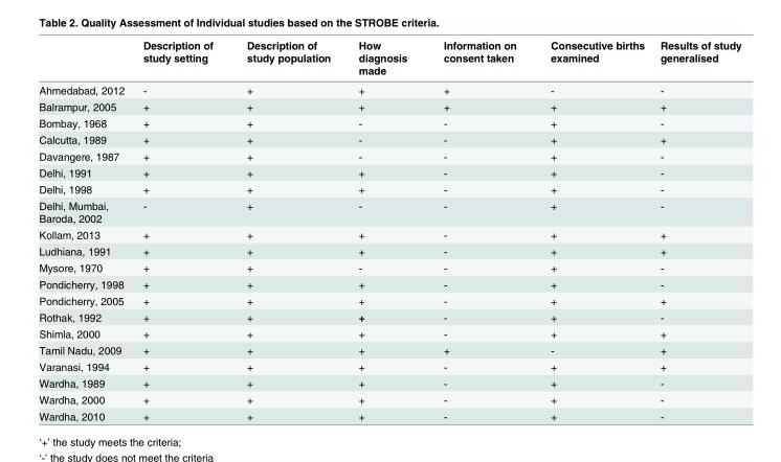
<table><thead><tr><td></td><td>Description of study setting</td><td>Description of study population</td><td>How diagnosis made</td><td>Information on consent taken</td><td>Consecutive births examined</td><td>Results of study generalised</td></tr></thead><tbody><tr><td>Ahmedabad, 2012</td><td>-</td><td>+</td><td>+</td><td>+</td><td>-</td><td>-</td></tr><tr><td>Balrampur, 2005</td><td>+</td><td>+</td><td>+</td><td>+</td><td>+</td><td>+</td></tr><tr><td>Bombay, 1968</td><td>+</td><td>+</td><td>-</td><td>-</td><td>+</td><td>-</td></tr><tr><td>Calcutta, 1989</td><td>+</td><td>+</td><td>-</td><td>-</td><td>+</td><td>+</td></tr><tr><td>Davangere, 1987</td><td>+</td><td>+</td><td>-</td><td>-</td><td>+</td><td>-</td></tr><tr><td>Delhi, 1991</td><td>+</td><td>+</td><td>+</td><td>-</td><td>+</td><td>-</td></tr><tr><td>Delhi, 1998</td><td>+</td><td>+</td><td>+</td><td>-</td><td>+</td><td>-</td></tr><tr><td>Delhi, Mumbai, Baroda, 2002</td><td>-</td><td>+</td><td>-</td><td>-</td><td>+</td><td>-</td></tr><tr><td>Kollam, 2013</td><td>+</td><td>+</td><td>+</td><td>-</td><td>+</td><td>+</td></tr><tr><td>Ludhiana, 1991</td><td>+</td><td>+</td><td>+</td><td>-</td><td>+</td><td>+</td></tr><tr><td>Mysore, 1970</td><td>+</td><td>+</td><td>-</td><td>-</td><td>+</td><td>-</td></tr><tr><td>Pondicherry, 1998</td><td>+</td><td>+</td><td>+</td><td>-</td><td>+</td><td>-</td></tr><tr><td>Pondicherry, 2005</td><td>+</td><td>+</td><td>+</td><td>-</td><td>+</td><td>+</td></tr><tr><td>Rothak, 1992</td><td>+</td><td>+</td><td>+</td><td>-</td><td>+</td><td>-</td></tr><tr><td>Shimla, 2000</td><td>+</td><td>+</td><td>+</td><td>-</td><td>+</td><td>+</td></tr><tr><td>Tamil Nadu, 2009</td><td>+</td><td>+</td><td>+</td><td>+</td><td>-</td><td>+</td></tr><tr><td>Varanasi, 1994</td><td>+</td><td>+</td><td>+</td><td>-</td><td>+</td><td>+</td></tr><tr><td>Wardha, 1989</td><td>+</td><td>+</td><td>+</td><td>-</td><td>+</td><td>-</td></tr><tr><td>Wardha, 2000</td><td>+</td><td>+</td><td>+</td><td>-</td><td>+</td><td>-</td></tr><tr><td>Wardha, 2010</td><td>+</td><td>+</td><td>+</td><td>-</td><td>+</td><td>-</td></tr></tbody></table>